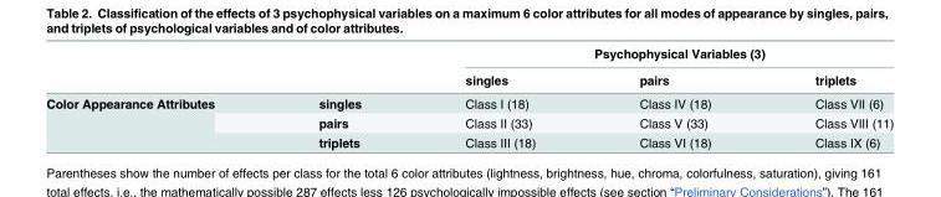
<table><thead><tr><td rowspan="2"></td><td rowspan="2"></td><td colspan="3">Psychophysical Variables (3)</td></tr><tr><td>singles</td><td>pairs</td><td>triplets</td></tr></thead><tbody><tr><td rowspan="3">Color Appearance Attributes</td><td>singles</td><td>Class I (18)</td><td>Class IV (18)</td><td>Class VII (6)</td></tr><tr><td>pairs</td><td>Class II (33)</td><td>Class V (33)</td><td>Class VIII (11)</td></tr><tr><td>triplets</td><td>Class III (18)</td><td>Class VI (18)</td><td>Class IX (6)</td></tr></tbody></table>